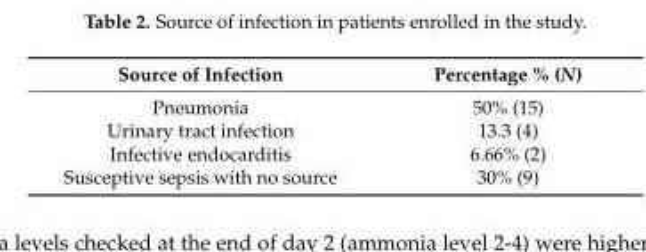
<table><thead><tr><td>Source of Infection</td><td>Percentage % (N)</td></tr></thead><tbody><tr><td>Pneumonia</td><td>50% (15)</td></tr><tr><td>Urinary tract infection</td><td>13.3 (4)</td></tr><tr><td>Infective endocarditis</td><td>6.66% (2)</td></tr><tr><td>Susceptive sepsis with no source</td><td>30% (9)</td></tr></tbody></table>